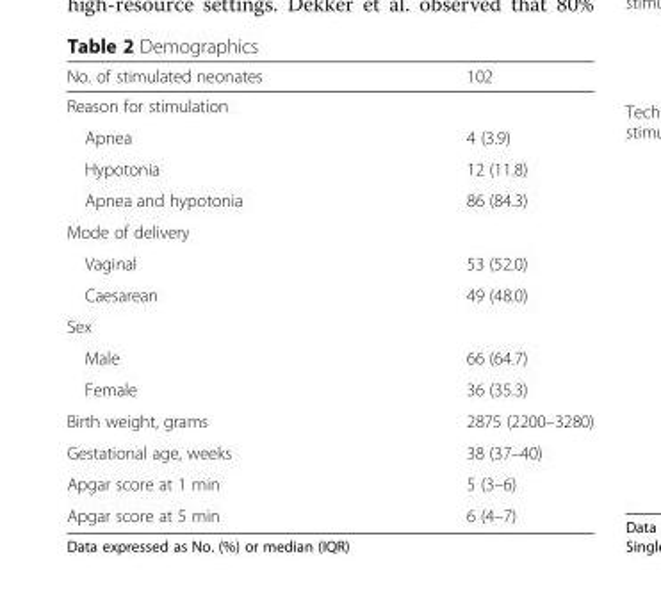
<table><thead><tr><td>No. of stimulated neonates</td><td>102</td></tr></thead><tbody><tr><td colspan="2">Reason for stimulation</td></tr><tr><td>Apnea</td><td>4 (3.9)</td></tr><tr><td>Hypotonia</td><td>12 (11.8)</td></tr><tr><td>Apnea and hypotonia</td><td>86 (84.3)</td></tr><tr><td colspan="2">Mode of delivery</td></tr><tr><td>Vaginal</td><td>53 (52.0)</td></tr><tr><td>Caesarean</td><td>49 (48.0)</td></tr><tr><td colspan="2">Sex</td></tr><tr><td>Male</td><td>66 (64.7)</td></tr><tr><td>Female</td><td>36 (35.3)</td></tr><tr><td>Birth weight, grams</td><td>2875 (2200–3280)</td></tr><tr><td>Gestational age, weeks</td><td>38 (37–40)</td></tr><tr><td>Apgar score at 1 min</td><td>5 (3–6)</td></tr><tr><td>Apgar score at 5 min</td><td>6 (4–7)</td></tr></tbody></table>